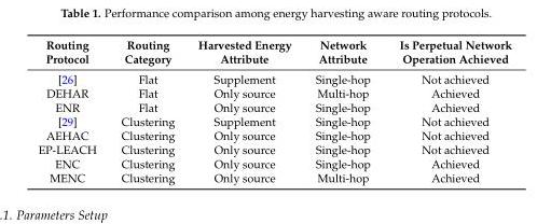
<table><thead><tr><td>Routing Protocol</td><td>Routing Category</td><td>Harvested Energy Attribute</td><td>Network Attribute</td><td>Is Perpetual Network Operation Achieved</td></tr></thead><tbody><tr><td>[26]</td><td>Flat</td><td>Supplement</td><td>Single-hop</td><td>Not achieved</td></tr><tr><td>DEHAR</td><td>Flat</td><td>Only source</td><td>Multi-hop</td><td>Achieved</td></tr><tr><td>ENR</td><td>Flat</td><td>Only source</td><td>Single-hop</td><td>Achieved</td></tr><tr><td>[29]</td><td>Clustering</td><td>Supplement</td><td>Single-hop</td><td>Not achieved</td></tr><tr><td>AEHAC</td><td>Clustering</td><td>Only source</td><td>Single-hop</td><td>Not achieved</td></tr><tr><td>EP-LEACH</td><td>Clustering</td><td>Only source</td><td>Single-hop</td><td>Not achieved</td></tr><tr><td>ENC</td><td>Clustering</td><td>Only source</td><td>Single-hop</td><td>Achieved</td></tr><tr><td>MENC</td><td>Clustering</td><td>Only source</td><td>Multi-hop</td><td>Achieved</td></tr></tbody></table>